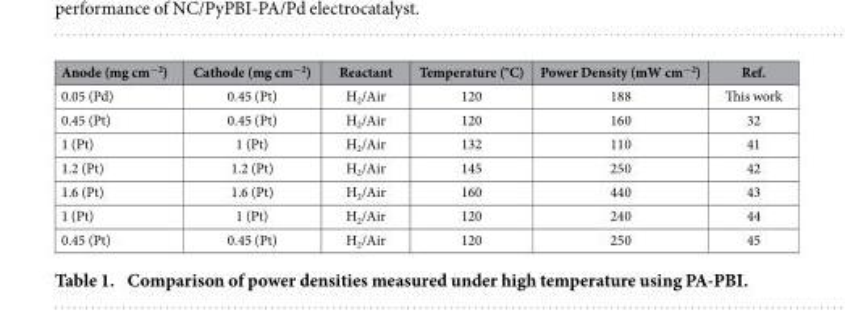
<table><thead><tr><td>Anode (mg cm<sup>−2</sup>)</td><td>Cathode (mg cm<sup>−2</sup>)</td><td>Reactant</td><td>Temperature (°C)</td><td>Power Density (mW cm<sup>−2</sup>)</td><td>Ref.</td></tr></thead><tbody><tr><td>0.05 (Pd)</td><td>0.45 (Pt)</td><td>H<sub>2</sub>/Air</td><td>120</td><td>188</td><td>This work</td></tr><tr><td>0.45 (Pt)</td><td>0.45 (Pt)</td><td>H<sub>2</sub>/Air</td><td>120</td><td>160</td><td>32</td></tr><tr><td>1 (Pt)</td><td>1 (Pt)</td><td>H<sub>2</sub>/Air</td><td>132</td><td>110</td><td>41</td></tr><tr><td>1.2 (Pt)</td><td>1.2 (Pt)</td><td>H<sub>2</sub>/Air</td><td>145</td><td>250</td><td>42</td></tr><tr><td>1.6 (Pt)</td><td>1.6 (Pt)</td><td>H<sub>2</sub>/Air</td><td>160</td><td>440</td><td>43</td></tr><tr><td>1 (Pt)</td><td>1 (Pt)</td><td>H<sub>2</sub>/Air</td><td>120</td><td>240</td><td>44</td></tr><tr><td>0.45 (Pt)</td><td>0.45 (Pt)</td><td>H<sub>2</sub>/Air</td><td>120</td><td>250</td><td>45</td></tr></tbody></table>